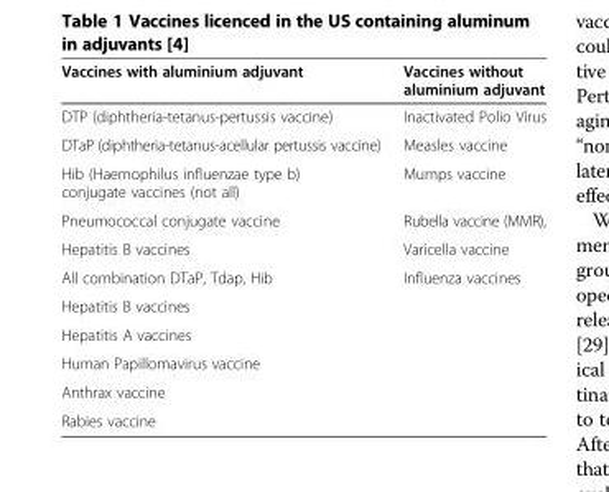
<table><thead><tr><td>Vaccines with aluminium adjuvant</td><td>Vaccines without aluminium adjuvant</td></tr></thead><tbody><tr><td>DTP (diphtheria-tetanus-pertussis vaccine)</td><td>Inactivated Polio Virus</td></tr><tr><td>DTaP (diphtheria-tetanus-acellular pertussis vaccine)</td><td>Measles vaccine</td></tr><tr><td>Hib (Haemophilus influenzae type b) conjugate vaccines (not all)</td><td>Mumps vaccine</td></tr><tr><td>Pneumococcal conjugate vaccine</td><td>Rubella vaccine (MMR),</td></tr><tr><td>Hepatitis B vaccines</td><td>Varicella vaccine</td></tr><tr><td>All combination DTaP, Tdap, Hib</td><td>Influenza vaccines</td></tr><tr><td colspan="2">Hepatitis B vaccines</td></tr><tr><td colspan="2">Hepatitis A vaccines</td></tr><tr><td colspan="2">Human Papillomavirus vaccine</td></tr><tr><td colspan="2">Anthrax vaccine</td></tr><tr><td>Rabies vaccine</td><td></td></tr></tbody></table>